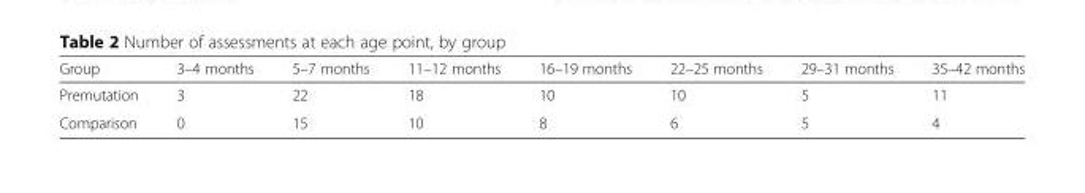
<table><thead><tr><td>Group</td><td>3–4 months</td><td>5–7 months</td><td>11–12 months</td><td>16–19 months</td><td>22–25 months</td><td>29–31 months</td><td>35–42 months</td></tr></thead><tbody><tr><td>Premutation</td><td>3</td><td>22</td><td>18</td><td>10</td><td>10</td><td>5</td><td>11</td></tr><tr><td>Comparison</td><td>0</td><td>15</td><td>10</td><td>8</td><td>6</td><td>5</td><td>4</td></tr></tbody></table>